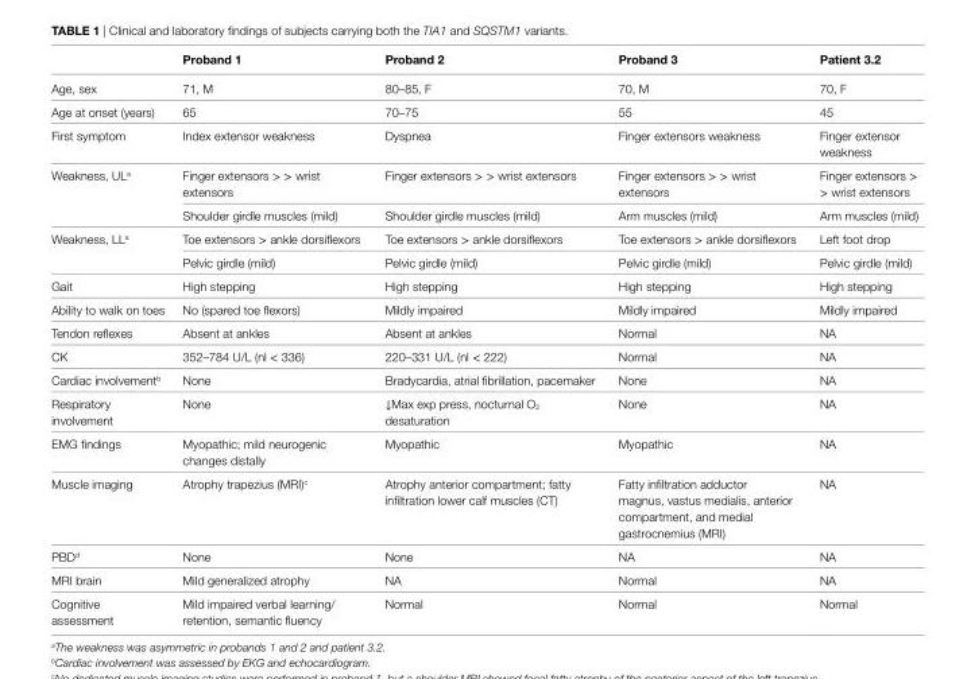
<table><thead><tr><td></td><td>Proband 1</td><td>Proband 2</td><td>Proband 3</td><td>Patient 3.2</td></tr></thead><tbody><tr><td>Age, sex</td><td>71, M</td><td>80–85, F</td><td>70, M</td><td>70, F</td></tr><tr><td>Age at onset (years)</td><td>65</td><td>70–75</td><td>55</td><td>45</td></tr><tr><td>First symptom</td><td>Index extensor weakness</td><td>Dyspnea</td><td>Finger extensors weakness</td><td>Finger extensor weakness</td></tr><tr><td rowspan="2">Weakness, UL<sup>a</sup></td><td>Finger extensors &gt; &gt; wrist extensors</td><td>Finger extensors &gt; &gt; wrist extensors</td><td>Finger extensors &gt; &gt; wrist extensors</td><td>Finger extensors &gt; &gt; wrist extensors</td></tr><tr><td>Shoulder girdle muscles (mild)</td><td>Shoulder girdle muscles (mild)</td><td>Arm muscles (mild)</td><td>Arm muscles (mild)</td></tr><tr><td rowspan="2">Weakness, LL<sup>a</sup></td><td>Toe extensors &gt; ankle dorsiflexors</td><td>Toe extensors &gt; ankle dorsiflexors</td><td>Toe extensors &gt; ankle dorsiflexors</td><td>Left foot drop</td></tr><tr><td>Pelvic girdle (mild)</td><td>Pelvic girdle (mild)</td><td>Pelvic girdle (mild)</td><td>Pelvic girdle (mild)</td></tr><tr><td>Gait</td><td>High stepping</td><td>High stepping</td><td>High stepping</td><td>High stepping</td></tr><tr><td>Ability to walk on toes</td><td>No (spared toe flexors)</td><td>Mildly impaired</td><td>Mildly impaired</td><td>Mildly impaired</td></tr><tr><td>Tendon reflexes</td><td>Absent at ankles</td><td>Absent at ankles</td><td>Normal</td><td>NA</td></tr><tr><td>CK</td><td>352–784 U/L (nl &lt; 336)</td><td>220–331 U/L (nl &lt; 222)</td><td>Normal</td><td>NA</td></tr><tr><td>Cardiac involvement<sup>b</sup></td><td>None</td><td>Bradycardia, atrial fibrillation, pacemaker</td><td>None</td><td>NA</td></tr><tr><td>Respiratory involvement</td><td>None</td><td>↓Max exp press, nocturnal O<sub>2</sub> desaturation</td><td>None</td><td>NA</td></tr><tr><td>EMG findings</td><td>Myopathic; mild neurogenic changes distally</td><td>Myopathic</td><td>Myopathic</td><td>NA</td></tr><tr><td>Muscle imaging</td><td>Atrophy trapezius (MRI)<sup>c</sup></td><td>Atrophy anterior compartment; fatty infiltration lower calf muscles (CT)</td><td>Fatty infiltration adductor magnus, vastus medialis, anterior compartment, and medial gastrocnemius (MRI)</td><td>NA</td></tr><tr><td>PBD<sup>d</sup></td><td>None</td><td>None</td><td>NA</td><td>NA</td></tr><tr><td>MRI brain</td><td>Mild generalized atrophy</td><td>NA</td><td>Normal</td><td>NA</td></tr><tr><td>Cognitive assessment</td><td>Mild impaired verbal learning/ retention, semantic fluency</td><td>Normal</td><td>Normal</td><td>Normal</td></tr></tbody></table>